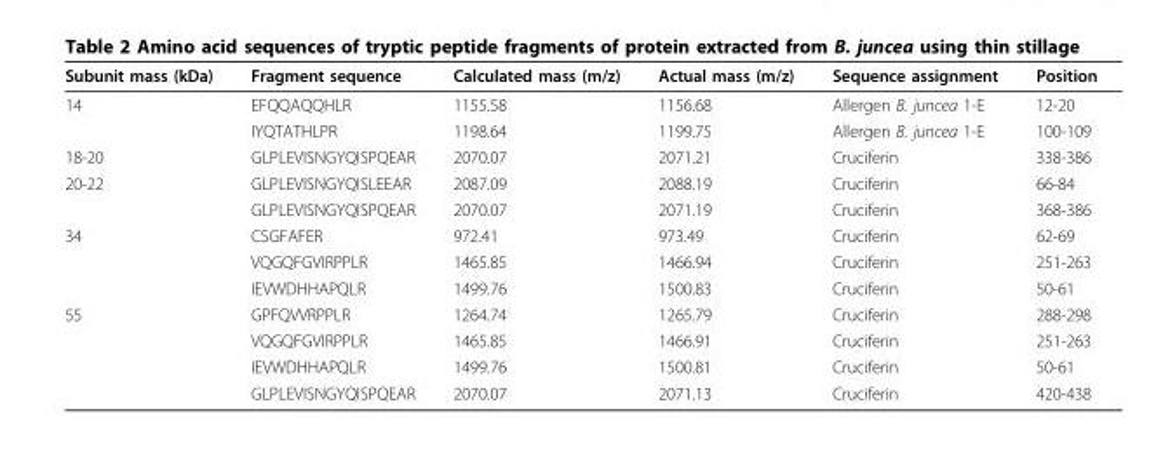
<table><thead><tr><td>Subunit mass (kDa)</td><td>Fragment sequence</td><td>Calculated mass (m/z)</td><td>Actual mass (m/z)</td><td>Sequence assignment</td><td>Position</td></tr></thead><tbody><tr><td rowspan="2">14</td><td>EFQQAQQHLR</td><td>1155.58</td><td>1156.68</td><td>Allergen B. juncea 1-E</td><td>12-20</td></tr><tr><td>IYQTATHLPR</td><td>1198.64</td><td>1199.75</td><td>Allergen B. juncea 1-E</td><td>100-109</td></tr><tr><td>18-20</td><td>GLPLEVISNGYQISPQEAR</td><td>2070.07</td><td>2071.21</td><td>Cruciferin</td><td>338-386</td></tr><tr><td rowspan="2">20-22</td><td>GLPLEVISNGYQISLEEAR</td><td>2087.09</td><td>2088.19</td><td>Cruciferin</td><td>66-84</td></tr><tr><td>GLPLEVISNGYQISPQEAR</td><td>2070.07</td><td>2071.19</td><td>Cruciferin</td><td>368-386</td></tr><tr><td rowspan="3">34</td><td>CSGFAFER</td><td>972.41</td><td>973.49</td><td>Cruciferin</td><td>62-69</td></tr><tr><td>VQGQFGVIRPPLR</td><td>1465.85</td><td>1466.94</td><td>Cruciferin</td><td>251-263</td></tr><tr><td>IEVWDHHAPQLR</td><td>1499.76</td><td>1500.83</td><td>Cruciferin</td><td>50-61</td></tr><tr><td rowspan="4">55</td><td>GPFQVVRPPLR</td><td>1264.74</td><td>1265.79</td><td>Cruciferin</td><td>288-298</td></tr><tr><td>VQGQFGVIRPPLR</td><td>1465.85</td><td>1466.91</td><td>Cruciferin</td><td>251-263</td></tr><tr><td>IEVWDHHAPQLR</td><td>1499.76</td><td>1500.81</td><td>Cruciferin</td><td>50-61</td></tr><tr><td>GLPLEVISNGYQISPQEAR</td><td>2070.07</td><td>2071.13</td><td>Cruciferin</td><td>420-438</td></tr></tbody></table>